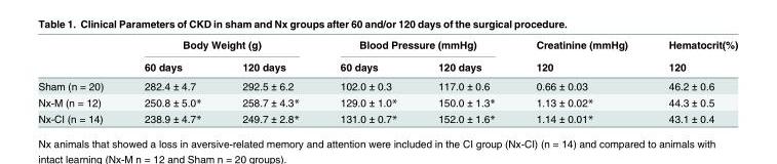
<table><thead><tr><td rowspan="2"></td><td colspan="2">Body Weight (g)</td><td colspan="2">Blood Pressure (mmHg)</td><td rowspan="2">Creatinine (mmHg) 120</td><td rowspan="2">Hematocrit(%) 120</td></tr><tr><td>60 days</td><td>120 days</td><td>60 days</td><td>120 days</td></tr></thead><tbody><tr><td>Sham (n = 20)</td><td>282.4 ± 4.7</td><td>292.5 ± 6.2</td><td>102.0 ± 0.3</td><td>117.0 ± 0.6</td><td>0.66 ± 0.03</td><td>46.2 ± 0.6</td></tr><tr><td>Nx-M (n = 12)</td><td>250.8 ± 5.0*</td><td>258.7 ± 4.3*</td><td>129.0 ± 1.0*</td><td>150.0 ± 1.3*</td><td>1.13 ± 0.02*</td><td>44.3 ± 0.5</td></tr><tr><td>Nx-CI (n = 14)</td><td>238.9 ± 4.7*</td><td>249.7 ± 2.8*</td><td>131.0 ± 0.7*</td><td>152.0 ± 1.6*</td><td>1.14 ± 0.01*</td><td>43.1 ± 0.4</td></tr></tbody></table>